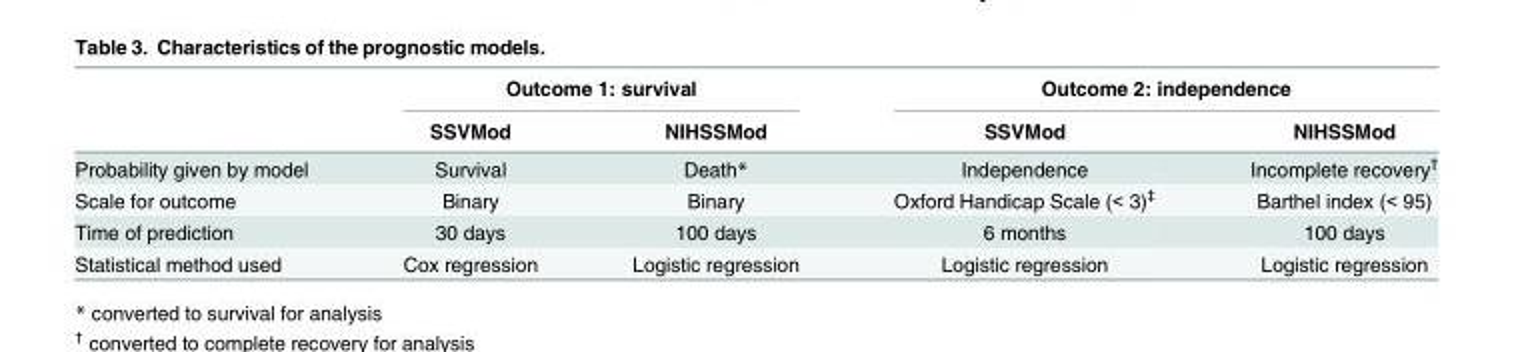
<table><thead><tr><td rowspan="2"></td><td colspan="2">Outcome 1: survival</td><td colspan="2">Outcome 2: independence</td></tr><tr><td>SSVMod</td><td>NIHSSMod</td><td>SSVMod</td><td>NIHSSMod</td></tr></thead><tbody><tr><td>Probability given by model</td><td>Survival</td><td>Death*</td><td>Independence</td><td>Incomplete recovery<sup>†</sup></td></tr><tr><td>Scale for outcome</td><td>Binary</td><td>Binary</td><td>Oxford Handicap Scale (&lt; 3)<sup>‡</sup></td><td>Barthel index (&lt; 95)</td></tr><tr><td>Time of prediction</td><td>30 days</td><td>100 days</td><td>6 months</td><td>100 days</td></tr><tr><td>Statistical method used</td><td>Cox regression</td><td>Logistic regression</td><td>Logistic regression</td><td>Logistic regression</td></tr></tbody></table>